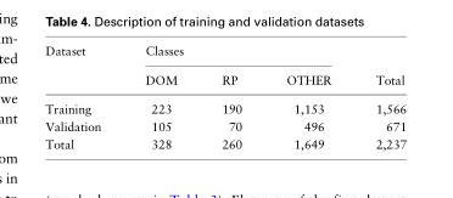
<table><thead><tr><td rowspan="2">Dataset</td><td colspan="3">Classes</td><td rowspan="2">Total</td></tr><tr><td>DOM</td><td>RP</td><td>OTHER</td></tr></thead><tbody><tr><td>Training</td><td>223</td><td>190</td><td>1,153</td><td>1,566</td></tr><tr><td>Validation</td><td>105</td><td>70</td><td>496</td><td>671</td></tr><tr><td>Total</td><td>328</td><td>260</td><td>1,649</td><td>2,237</td></tr></tbody></table>